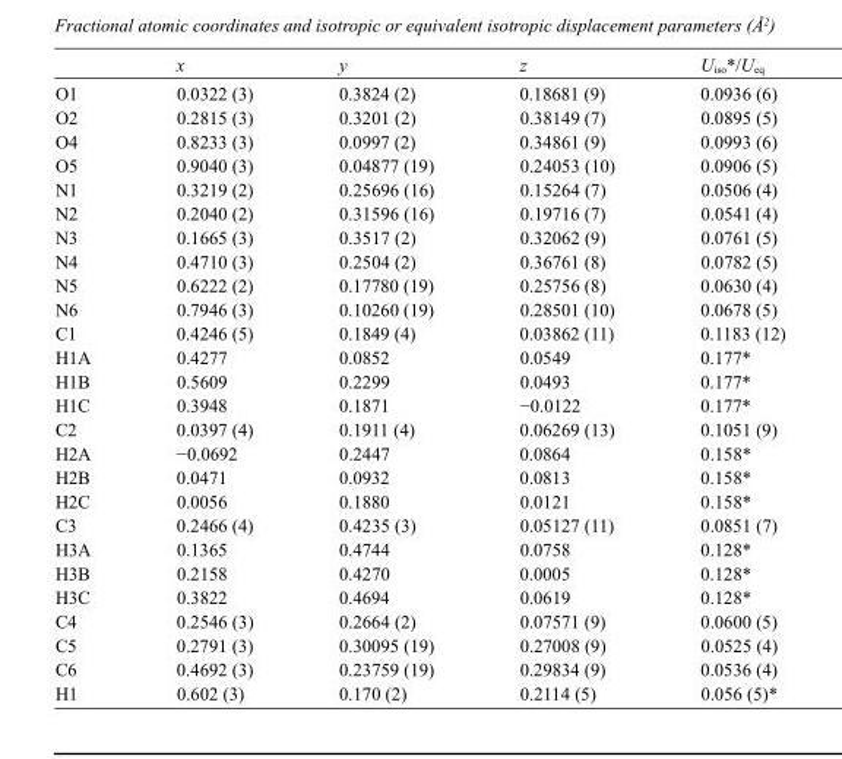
<table><thead><tr><td></td><td>x</td><td>y</td><td>z</td><td>U<sub>iso</sub>*/U<sub>eq</sub></td></tr></thead><tbody><tr><td>O1</td><td>0.0322 (3)</td><td>0.3824 (2)</td><td>0.18681 (9)</td><td>0.0936 (6)</td></tr><tr><td>O2</td><td>0.2815 (3)</td><td>0.3201 (2)</td><td>0.38149 (7)</td><td>0.0895 (5)</td></tr><tr><td>O4</td><td>0.8233 (3)</td><td>0.0997 (2)</td><td>0.34861 (9)</td><td>0.0993 (6)</td></tr><tr><td>O5</td><td>0.9040 (3)</td><td>0.04877 (19)</td><td>0.24053 (10)</td><td>0.0906 (5)</td></tr><tr><td>N1</td><td>0.3219 (2)</td><td>0.25696 (16)</td><td>0.15264 (7)</td><td>0.0506 (4)</td></tr><tr><td>N2</td><td>0.2040 (2)</td><td>0.31596 (16)</td><td>0.19716 (7)</td><td>0.0541 (4)</td></tr><tr><td>N3</td><td>0.1665 (3)</td><td>0.3517 (2)</td><td>0.32062 (9)</td><td>0.0761 (5)</td></tr><tr><td>N4</td><td>0.4710 (3)</td><td>0.2504 (2)</td><td>0.36761 (8)</td><td>0.0782 (5)</td></tr><tr><td>N5</td><td>0.6222 (2)</td><td>0.17780 (19)</td><td>0.25756 (8)</td><td>0.0630 (4)</td></tr><tr><td>N6</td><td>0.7946 (3)</td><td>0.10260 (19)</td><td>0.28501 (10)</td><td>0.0678 (5)</td></tr><tr><td>C1</td><td>0.4246 (5)</td><td>0.1849 (4)</td><td>0.03862 (11)</td><td>0.1183 (12)</td></tr><tr><td>H1A</td><td>0.4277</td><td>0.0852</td><td>0.0549</td><td>0.177*</td></tr><tr><td>H1B</td><td>0.5609</td><td>0.2299</td><td>0.0493</td><td>0.177*</td></tr><tr><td>H1C</td><td>0.3948</td><td>0.1871</td><td>−0.0122</td><td>0.177*</td></tr><tr><td>C2</td><td>0.0397 (4)</td><td>0.1911 (4)</td><td>0.06269 (13)</td><td>0.1051 (9)</td></tr><tr><td>H2A</td><td>−0.0692</td><td>0.2447</td><td>0.0864</td><td>0.158*</td></tr><tr><td>H2B</td><td>0.0471</td><td>0.0932</td><td>0.0813</td><td>0.158*</td></tr><tr><td>H2C</td><td>0.0056</td><td>0.1880</td><td>0.0121</td><td>0.158*</td></tr><tr><td>C3</td><td>0.2466 (4)</td><td>0.4235 (3)</td><td>0.05127 (11)</td><td>0.0851 (7)</td></tr><tr><td>H3A</td><td>0.1365</td><td>0.4744</td><td>0.0758</td><td>0.128*</td></tr><tr><td>H3B</td><td>0.2158</td><td>0.4270</td><td>0.0005</td><td>0.128*</td></tr><tr><td>H3C</td><td>0.3822</td><td>0.4694</td><td>0.0619</td><td>0.128*</td></tr><tr><td>C4</td><td>0.2546 (3)</td><td>0.2664 (2)</td><td>0.07571 (9)</td><td>0.0600 (5)</td></tr><tr><td>C5</td><td>0.2791 (3)</td><td>0.30095 (19)</td><td>0.27008 (9)</td><td>0.0525 (4)</td></tr><tr><td>C6</td><td>0.4692 (3)</td><td>0.23759 (19)</td><td>0.29834 (9)</td><td>0.0536 (4)</td></tr><tr><td>H1</td><td>0.602 (3)</td><td>0.170 (2)</td><td>0.2114 (5)</td><td>0.056 (5)*</td></tr></tbody></table>